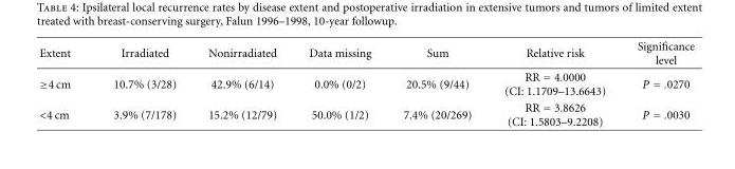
<table><thead><tr><td>Extent</td><td>Irradiated</td><td>Nonirradiated</td><td>Data missing</td><td>Sum</td><td>Relative risk</td><td>Significance level</td></tr></thead><tbody><tr><td>≥4 cm</td><td>10.7% (3/28)</td><td>42.9% (6/14)</td><td>0.0% (0/2)</td><td>20.5% (9/44)</td><td>RR = 4.0000 (CI: 1.1709–13.6643)</td><td>P = .0270</td></tr><tr><td>&lt;4 cm</td><td>3.9% (7/178)</td><td>15.2% (12/79)</td><td>50.0% (1/2)</td><td>7.4% (20/269)</td><td>RR = 3.8626 (CI: 1.5803–9.2208)</td><td>P = .0030</td></tr></tbody></table>